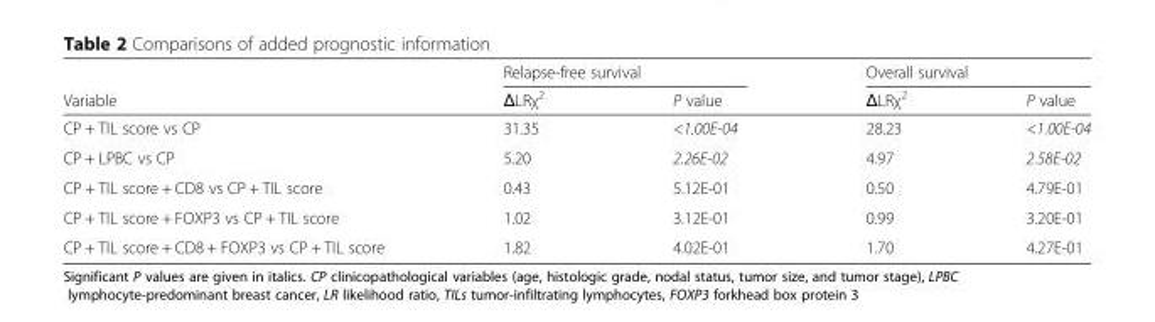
<table><thead><tr><td rowspan="2">Variable</td><td colspan="2">Relapse-free survival</td><td colspan="2">Overall survival</td></tr><tr><td>ΔLRχ<sup>2</sup></td><td>P value</td><td>ΔLRχ<sup>2</sup></td><td>P value</td></tr></thead><tbody><tr><td>CP + TIL score vs CP</td><td>31.35</td><td>&lt;1.00E-04</td><td>28.23</td><td>&lt;1.00E-04</td></tr><tr><td>CP + LPBC vs CP</td><td>5.20</td><td>2.26E-02</td><td>4.97</td><td>2.58E-02</td></tr><tr><td>CP + TIL score + CD8 vs CP + TIL score</td><td>0.43</td><td>5.12E-01</td><td>0.50</td><td>4.79E-01</td></tr><tr><td>CP + TIL score + FOXP3 vs CP + TIL score</td><td>1.02</td><td>3.12E-01</td><td>0.99</td><td>3.20E-01</td></tr><tr><td>CP + TIL score + CD8 + FOXP3 vs CP + TIL score</td><td>1.82</td><td>4.02E-01</td><td>1.70</td><td>4.27E-01</td></tr></tbody></table>